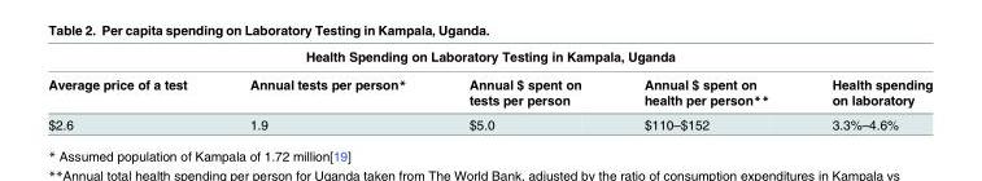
<table><thead><tr><td colspan="5">Health Spending on Laboratory Testing in Kampala, Uganda</td></tr><tr><td>Average price of a test</td><td>Annual tests per person*</td><td>Annual $ spent on tests per person</td><td>Annual $ spent on health per person**</td><td>Health spending on laboratory</td></tr></thead><tbody><tr><td>$2.6</td><td>1.9</td><td>$5.0</td><td>$110–$152</td><td>3.3%–4.6%</td></tr></tbody></table>